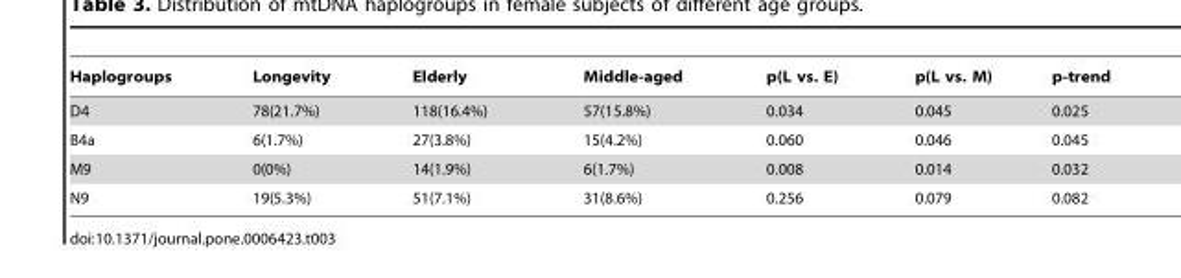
<table><thead><tr><td>Haplogroups</td><td>Longevity</td><td>Elderly</td><td>Middle-aged</td><td>p(L vs. E)</td><td>p(L vs. M)</td><td>p-trend</td></tr></thead><tbody><tr><td>D4</td><td>78(21.7%)</td><td>118(16.4%)</td><td>57(15.8%)</td><td>0.034</td><td>0.045</td><td>0.025</td></tr><tr><td>B4a</td><td>6(1.7%)</td><td>27(3.8%)</td><td>15(4.2%)</td><td>0.060</td><td>0.046</td><td>0.045</td></tr><tr><td>M9</td><td>0(0%)</td><td>14(1.9%)</td><td>6(1.7%)</td><td>0.008</td><td>0.014</td><td>0.032</td></tr><tr><td>N9</td><td>19(5.3%)</td><td>51(7.1%)</td><td>31(8.6%)</td><td>0.256</td><td>0.079</td><td>0.082</td></tr></tbody></table>